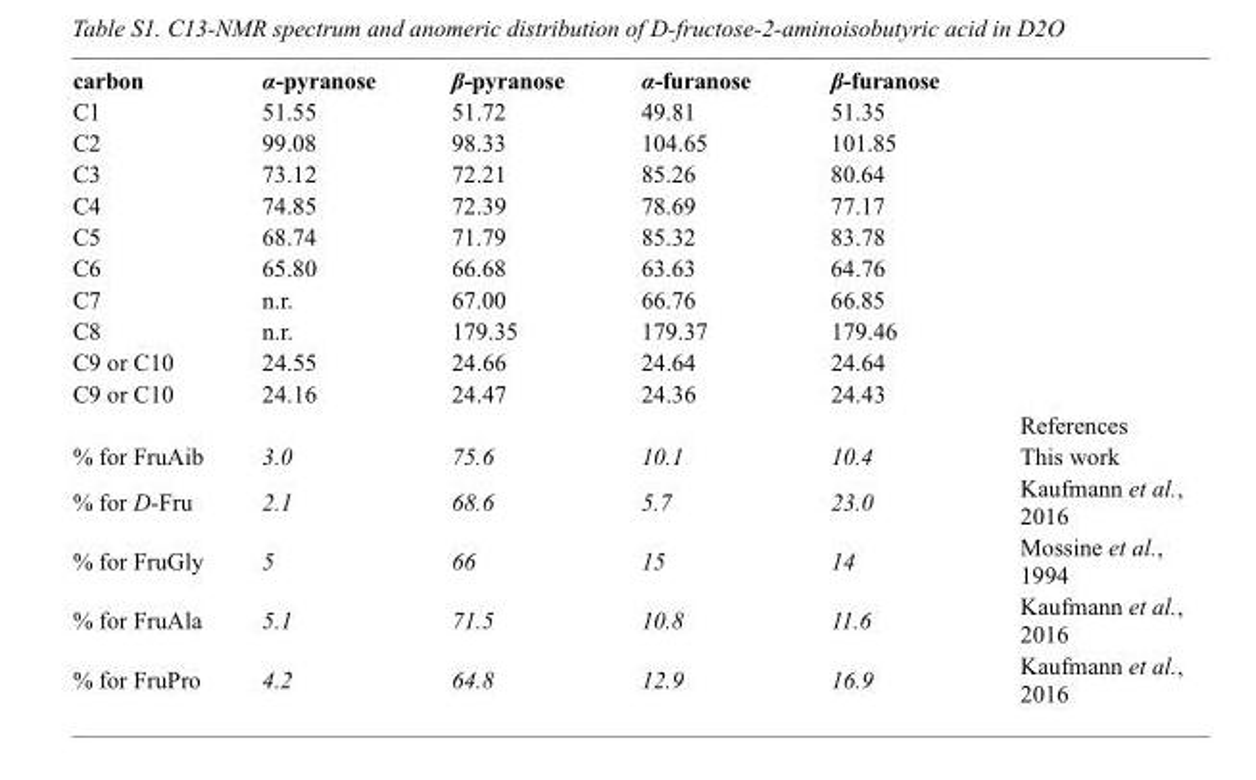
<table><tbody><tr><td>carbon</td><td>α-pyranose</td><td>β-pyranose</td><td>α-furanose</td><td>β-furanose</td><td></td></tr><tr><td>C1</td><td>51.55</td><td>51.72</td><td>49.81</td><td>51.35</td><td></td></tr><tr><td>C2</td><td>99.08</td><td>98.33</td><td>104.65</td><td>101.85</td><td></td></tr><tr><td>C3</td><td>73.12</td><td>72.21</td><td>85.26</td><td>80.64</td><td></td></tr><tr><td>C4</td><td>74.85</td><td>72.39</td><td>78.69</td><td>77.17</td><td></td></tr><tr><td>C5</td><td>68.74</td><td>71.79</td><td>85.32</td><td>83.78</td><td></td></tr><tr><td>C6</td><td>65.80</td><td>66.68</td><td>63.63</td><td>64.76</td><td></td></tr><tr><td>C7</td><td>n.r.</td><td>67.00</td><td>66.76</td><td>66.85</td><td></td></tr><tr><td>C8</td><td>n.r.</td><td>179.35</td><td>179.37</td><td>179.46</td><td></td></tr><tr><td>C9 or C10</td><td>24.55</td><td>24.66</td><td>24.64</td><td>24.64</td><td></td></tr><tr><td rowspan="2">C9 or C10</td><td>24.16</td><td>24.47</td><td>24.36</td><td>24.43</td><td></td></tr><tr><td></td><td></td><td></td><td></td><td>References</td></tr><tr><td>% for FruAib</td><td>3.0</td><td>75.6</td><td>10.1</td><td>10.4</td><td>This work</td></tr><tr><td>% for D-Fru</td><td>2.1</td><td>68.6</td><td>5.7</td><td>23.0</td><td>Kaufmann et al., 2016</td></tr><tr><td>% for FruGly</td><td>5</td><td>66</td><td>15</td><td>14</td><td>Mossine et al., 1994</td></tr><tr><td>% for FruAla</td><td>5.1</td><td>71.5</td><td>10.8</td><td>11.6</td><td>Kaufmann et al., 2016</td></tr><tr><td>% for FruPro</td><td>4.2</td><td>64.8</td><td>12.9</td><td>16.9</td><td>Kaufmann et al., 2016</td></tr></tbody></table>